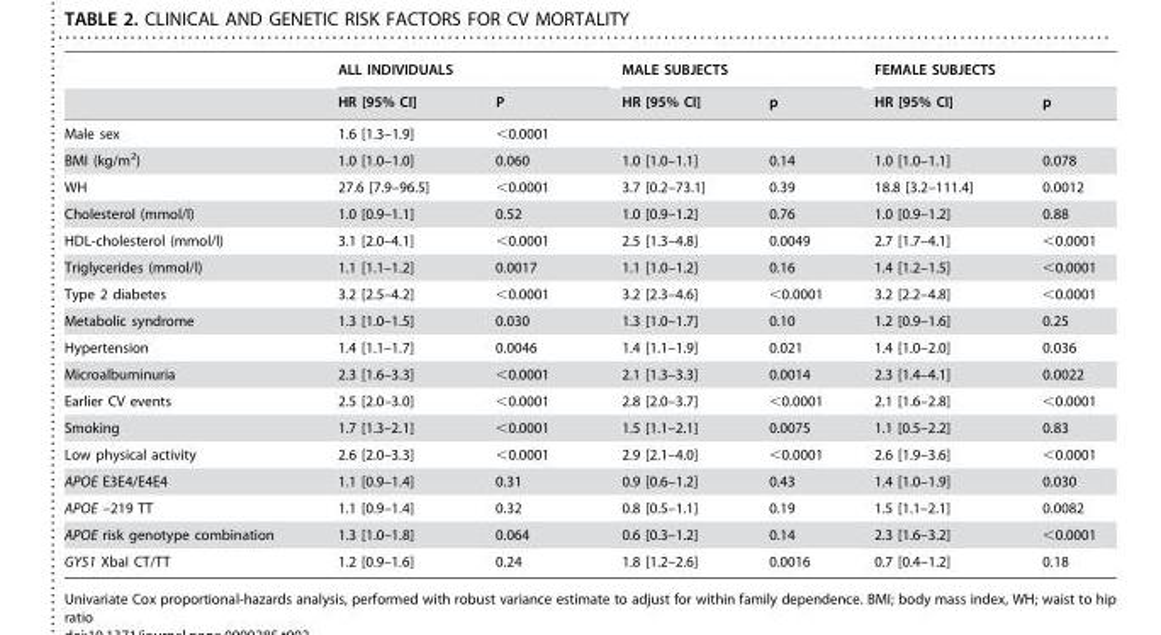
<table><thead><tr><td rowspan="2"></td><td colspan="2">ALL INDIVIDUALS</td><td colspan="2">MALE SUBJECTS</td><td colspan="2">FEMALE SUBJECTS</td></tr><tr><td>HR [95% CI]</td><td>P</td><td>HR [95% CI]</td><td>p</td><td>HR [95% CI]</td><td>p</td></tr></thead><tbody><tr><td>Male sex</td><td>1.6 [1.3–1.9]</td><td>&lt;0.0001</td><td></td><td></td><td></td><td></td></tr><tr><td>BMI (kg/m<sup>2</sup>)</td><td>1.0 [1.0–1.0]</td><td>0.060</td><td>1.0 [1.0–1.1]</td><td>0.14</td><td>1.0 [1.0–1.1]</td><td>0.078</td></tr><tr><td>WH</td><td>27.6 [7.9–96.5]</td><td>&lt;0.0001</td><td>3.7 [0.2–73.1]</td><td>0.39</td><td>18.8 [3.2–111.4]</td><td>0.0012</td></tr><tr><td>Cholesterol (mmol/l)</td><td>1.0 [0.9–1.1]</td><td>0.52</td><td>1.0 [0.9–1.2]</td><td>0.76</td><td>1.0 [0.9–1.2]</td><td>0.88</td></tr><tr><td>HDL-cholesterol (mmol/l)</td><td>3.1 [2.0–4.1]</td><td>&lt;0.0001</td><td>2.5 [1.3–4.8]</td><td>0.0049</td><td>2.7 [1.7–4.1]</td><td>&lt;0.0001</td></tr><tr><td>Triglycerides (mmol/l)</td><td>1.1 [1.1–1.2]</td><td>0.0017</td><td>1.1 [1.0–1.2]</td><td>0.16</td><td>1.4 [1.2–1.5]</td><td>&lt;0.0001</td></tr><tr><td>Type 2 diabetes</td><td>3.2 [2.5–4.2]</td><td>&lt;0.0001</td><td>3.2 [2.3–4.6]</td><td>&lt;0.0001</td><td>3.2 [2.2–4.8]</td><td>&lt;0.0001</td></tr><tr><td>Metabolic syndrome</td><td>1.3 [1.0–1.5]</td><td>0.030</td><td>1.3 [1.0–1.7]</td><td>0.10</td><td>1.2 [0.9–1.6]</td><td>0.25</td></tr><tr><td>Hypertension</td><td>1.4 [1.1–1.7]</td><td>0.0046</td><td>1.4 [1.1–1.9]</td><td>0.021</td><td>1.4 [1.0–2.0]</td><td>0.036</td></tr><tr><td>Microalbuminuria</td><td>2.3 [1.6–3.3]</td><td>&lt;0.0001</td><td>2.1 [1.3–3.3]</td><td>0.0014</td><td>2.3 [1.4–4.1]</td><td>0.0022</td></tr><tr><td>Earlier CV events</td><td>2.5 [2.0–3.0]</td><td>&lt;0.0001</td><td>2.8 [2.0–3.7]</td><td>&lt;0.0001</td><td>2.1 [1.6–2.8]</td><td>&lt;0.0001</td></tr><tr><td>Smoking</td><td>1.7 [1.3–2.1]</td><td>&lt;0.0001</td><td>1.5 [1.1–2.1]</td><td>0.0075</td><td>1.1 [0.5–2.2]</td><td>0.83</td></tr><tr><td>Low physical activity</td><td>2.6 [2.0–3.3]</td><td>&lt;0.0001</td><td>2.9 [2.1–4.0]</td><td>&lt;0.0001</td><td>2.6 [1.9–3.6]</td><td>&lt;0.0001</td></tr><tr><td>APOE E3E4/E4E4</td><td>1.1 [0.9–1.4]</td><td>0.31</td><td>0.9 [0.6–1.2]</td><td>0.43</td><td>1.4 [1.0–1.9]</td><td>0.030</td></tr><tr><td>APOE –219 TT</td><td>1.1 [0.9–1.4]</td><td>0.32</td><td>0.8 [0.5–1.1]</td><td>0.19</td><td>1.5 [1.1–2.1]</td><td>0.0082</td></tr><tr><td>APOE risk genotype combination</td><td>1.3 [1.0–1.8]</td><td>0.064</td><td>0.6 [0.3–1.2]</td><td>0.14</td><td>2.3 [1.6–3.2]</td><td>&lt;0.0001</td></tr><tr><td>GYS1 XbaI CT/TT</td><td>1.2 [0.9–1.6]</td><td>0.24</td><td>1.8 [1.2–2.6]</td><td>0.0016</td><td>0.7 [0.4–1.2]</td><td>0.18</td></tr></tbody></table>